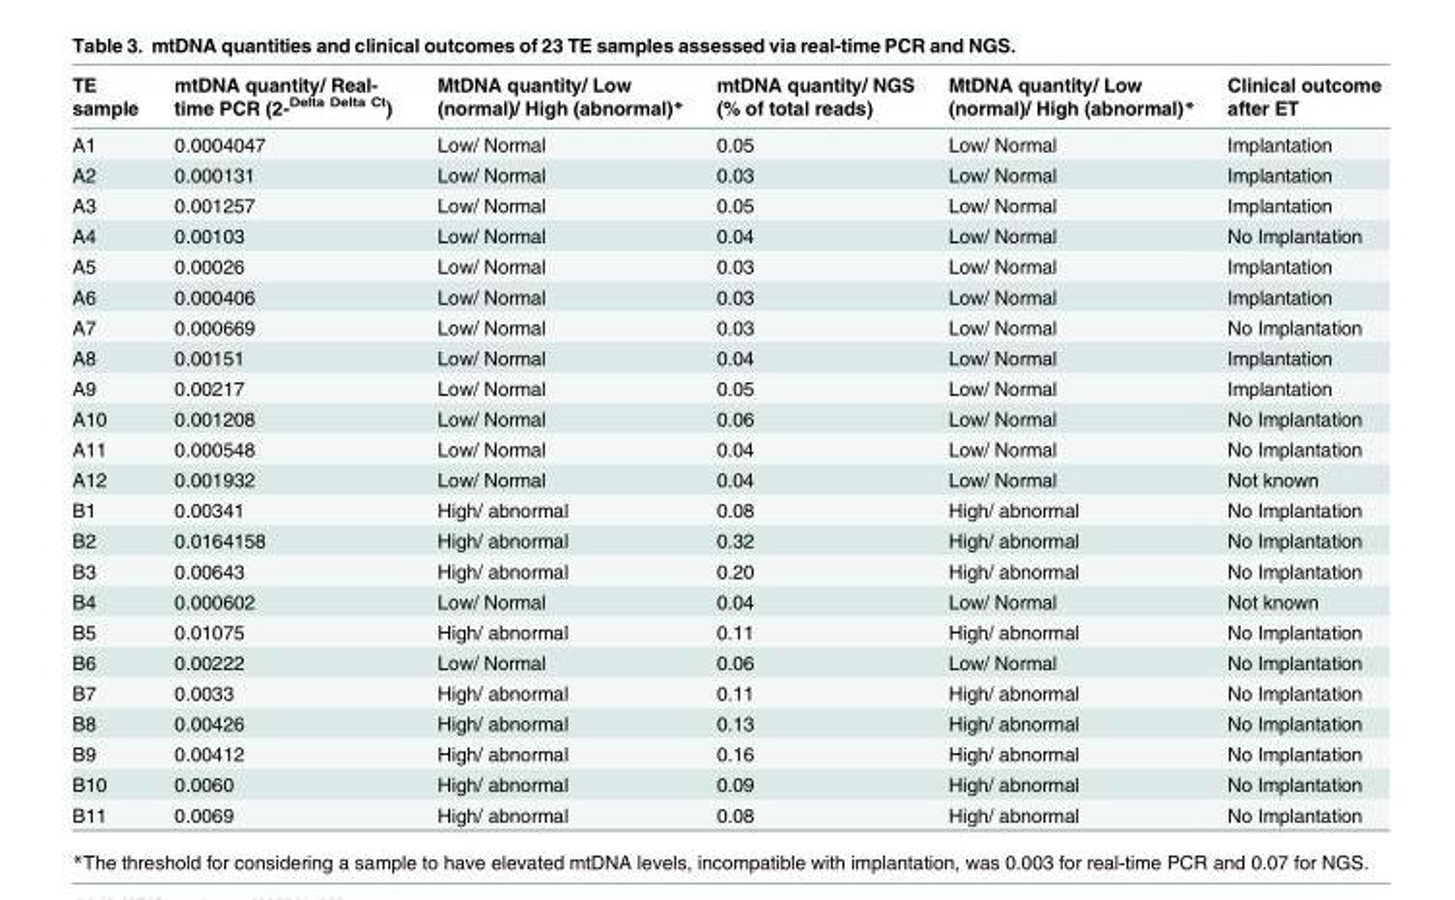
<table><thead><tr><td>TE sample</td><td>mtDNA quantity/ Real- time PCR (2-<sup>Delta Delta Ct</sup>)</td><td>MtDNA quantity/ Low (normal)/ High (abnormal)*</td><td>mtDNA quantity/ NGS (% of total reads)</td><td>MtDNA quantity/ Low (normal)/ High (abnormal)*</td><td>Clinical outcome after ET</td></tr></thead><tbody><tr><td>A1</td><td>0.0004047</td><td>Low/ Normal</td><td>0.05</td><td>Low/ Normal</td><td>Implantation</td></tr><tr><td>A2</td><td>0.000131</td><td>Low/ Normal</td><td>0.03</td><td>Low/ Normal</td><td>Implantation</td></tr><tr><td>A3</td><td>0.001257</td><td>Low/ Normal</td><td>0.05</td><td>Low/ Normal</td><td>Implantation</td></tr><tr><td>A4</td><td>0.00103</td><td>Low/ Normal</td><td>0.04</td><td>Low/ Normal</td><td>No Implantation</td></tr><tr><td>A5</td><td>0.00026</td><td>Low/ Normal</td><td>0.03</td><td>Low/ Normal</td><td>Implantation</td></tr><tr><td>A6</td><td>0.000406</td><td>Low/ Normal</td><td>0.03</td><td>Low/ Normal</td><td>Implantation</td></tr><tr><td>A7</td><td>0.000669</td><td>Low/ Normal</td><td>0.03</td><td>Low/ Normal</td><td>No Implantation</td></tr><tr><td>A8</td><td>0.00151</td><td>Low/ Normal</td><td>0.04</td><td>Low/ Normal</td><td>Implantation</td></tr><tr><td>A9</td><td>0.00217</td><td>Low/ Normal</td><td>0.05</td><td>Low/ Normal</td><td>Implantation</td></tr><tr><td>A10</td><td>0.001208</td><td>Low/ Normal</td><td>0.06</td><td>Low/ Normal</td><td>No Implantation</td></tr><tr><td>A11</td><td>0.000548</td><td>Low/ Normal</td><td>0.04</td><td>Low/ Normal</td><td>No Implantation</td></tr><tr><td>A12</td><td>0.001932</td><td>Low/ Normal</td><td>0.04</td><td>Low/ Normal</td><td>Not known</td></tr><tr><td>B1</td><td>0.00341</td><td>High/ abnormal</td><td>0.08</td><td>High/ abnormal</td><td>No Implantation</td></tr><tr><td>B2</td><td>0.0164158</td><td>High/ abnormal</td><td>0.32</td><td>High/ abnormal</td><td>No Implantation</td></tr><tr><td>B3</td><td>0.00643</td><td>High/ abnormal</td><td>0.20</td><td>High/ abnormal</td><td>No Implantation</td></tr><tr><td>B4</td><td>0.000602</td><td>Low/ Normal</td><td>0.04</td><td>Low/ Normal</td><td>Not known</td></tr><tr><td>B5</td><td>0.01075</td><td>High/ abnormal</td><td>0.11</td><td>High/ abnormal</td><td>No Implantation</td></tr><tr><td>B6</td><td>0.00222</td><td>Low/ Normal</td><td>0.06</td><td>Low/ Normal</td><td>No Implantation</td></tr><tr><td>B7</td><td>0.0033</td><td>High/ abnormal</td><td>0.11</td><td>High/ abnormal</td><td>No Implantation</td></tr><tr><td>B8</td><td>0.00426</td><td>High/ abnormal</td><td>0.13</td><td>High/ abnormal</td><td>No Implantation</td></tr><tr><td>B9</td><td>0.00412</td><td>High/ abnormal</td><td>0.16</td><td>High/ abnormal</td><td>No Implantation</td></tr><tr><td>B10</td><td>0.0060</td><td>High/ abnormal</td><td>0.09</td><td>High/ abnormal</td><td>No Implantation</td></tr><tr><td>B11</td><td>0.0069</td><td>High/ abnormal</td><td>0.08</td><td>High/ abnormal</td><td>No Implantation</td></tr></tbody></table>